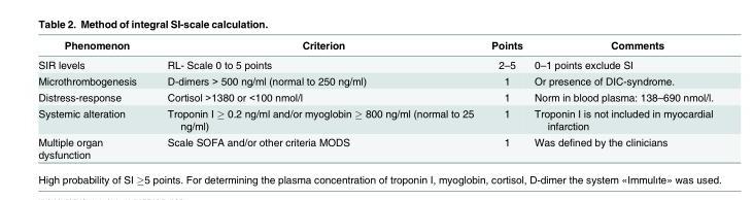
<table><thead><tr><td>Phenomenon</td><td>Criterion</td><td>Points</td><td>Comments</td></tr></thead><tbody><tr><td>SIR levels</td><td>RL- Scale 0 to 5 points</td><td>2–5</td><td>0–1 points exclude SI</td></tr><tr><td>Microthrombogenesis</td><td>D-dimers &gt; 500 ng/ml (normal to 250 ng/ml)</td><td>1</td><td>Or presence of DIC-syndrome.</td></tr><tr><td>Distress-response</td><td>Cortisol &gt;1380 or &lt;100 nmol/l</td><td>1</td><td>Norm in blood plasma: 138–690 nmol/l.</td></tr><tr><td>Systemic alteration</td><td>Troponin I ≥ 0.2 ng/ml and/or myoglobin ≥ 800 ng/ml (normal to 25 ng/ml)</td><td>1</td><td>Troponin I is not included in myocardial infarction</td></tr><tr><td>Multiple organ dysfunction</td><td>Scale SOFA and/or other criteria MODS</td><td>1</td><td>Was defined by the clinicians</td></tr></tbody></table>